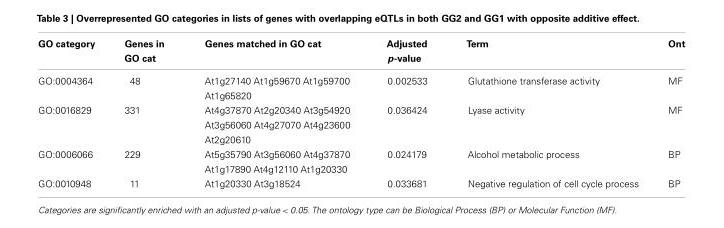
<table><thead><tr><td>GO category</td><td>Genes in GO cat</td><td>Genes matched in GO cat</td><td>Adjusted p-value</td><td>Term</td><td>Ont</td></tr></thead><tbody><tr><td>GO:0004364</td><td>48</td><td>At1g27140 At1g59670 At1g59700 At1g65820</td><td>0.002533</td><td>Glutathione transferase activity</td><td>MF</td></tr><tr><td>GO:0016829</td><td>331</td><td>At4g37870 At2g20340 At3g54920 At3g56060 At4g27070 At4g23600 At2g20610</td><td>0.036424</td><td>Lyase activity</td><td>MF</td></tr><tr><td>GO:0006066</td><td>229</td><td>At5g35790 At3g56060 At4g37870 At1g17890 At4g12110 At1g20330</td><td>0.024179</td><td>Alcohol metabolic process</td><td>BP</td></tr><tr><td>GO:0010948</td><td>11</td><td>At1g20330 At3g18524</td><td>0.033681</td><td>Negative regulation of cell cycle process</td><td>BP</td></tr></tbody></table>